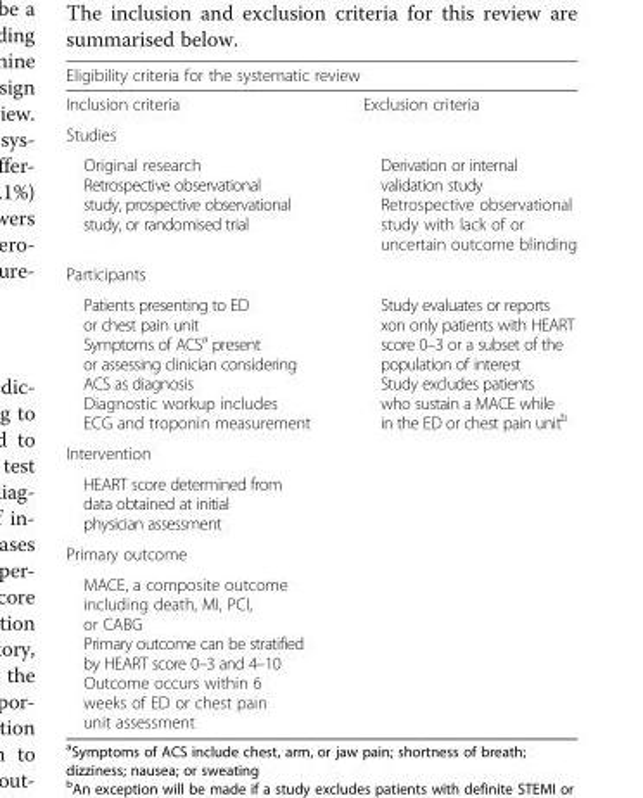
<table><thead><tr><td colspan="2">Eligibility criteria for the systematic review</td></tr><tr><td>Inclusion criteria</td><td>Exclusion criteria</td></tr></thead><tbody><tr><td colspan="2">Studies</td></tr><tr><td>Original research Retrospective observational study, prospective observational study, or randomised trial</td><td>Derivation or internal validation study Retrospective observational study with lack of or uncertain outcome blinding</td></tr><tr><td colspan="2">Participants</td></tr><tr><td>Patients presenting to ED or chest pain unit Symptoms of ACS<sup>a</sup> present or assessing clinician considering ACS as diagnosis Diagnostic workup includes ECG and troponin measurement</td><td>Study evaluates or reports xon only patients with HEART score 0–3 or a subset of the population of interest Study excludes patients who sustain a MACE while in the ED or chest pain unit<sup>b</sup></td></tr><tr><td colspan="2">Intervention</td></tr><tr><td colspan="2">HEART score determined from data obtained at initial physician assessment</td></tr><tr><td colspan="2">Primary outcome</td></tr><tr><td>MACE, a composite outcome including death, MI, PCI, or CABG Primary outcome can be stratified by HEART score 0–3 and 4–10 Outcome occurs within 6 weeks of ED or chest pain unit assessment</td><td></td></tr></tbody></table>